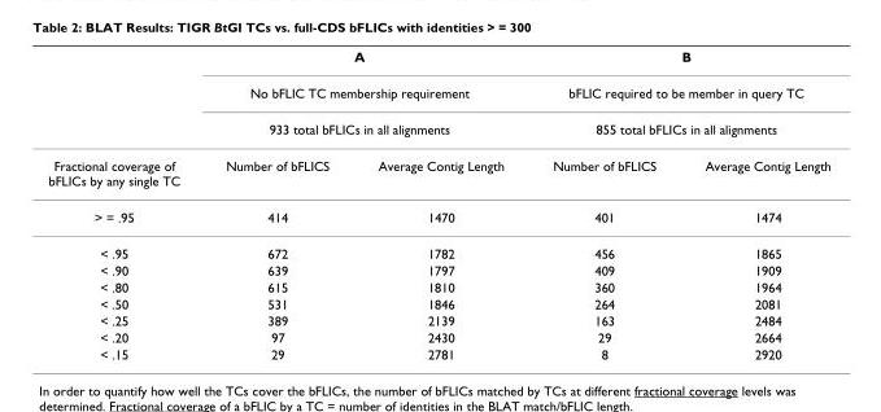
<table><thead><tr><td rowspan="4">Fractional coverage of bFLICs by any single TC</td><td rowspan="3" colspan="2">A No bFLIC TC membership requirement 933 total bFLICs in all alignments</td><td rowspan="3" colspan="2">B bFLIC required to be member in query TC 855 total bFLICs in all alignments</td></tr><tr></tr><tr></tr><tr><td>Number of bFLICS</td><td>Average Contig Length</td><td>Number of bFLICS</td><td>Average Contig Length</td></tr></thead><tbody><tr><td>&gt; = .95</td><td>414</td><td>1470</td><td>401</td><td>1474</td></tr><tr><td>&lt; .95</td><td>672</td><td>1782</td><td>456</td><td>1865</td></tr><tr><td>&lt; .90</td><td>639</td><td>1797</td><td>409</td><td>1909</td></tr><tr><td>&lt; .80</td><td>615</td><td>1810</td><td>360</td><td>1964</td></tr><tr><td>&lt; .50</td><td>531</td><td>1846</td><td>264</td><td>2081</td></tr><tr><td>&lt; .25</td><td>389</td><td>2139</td><td>163</td><td>2484</td></tr><tr><td>&lt; .20</td><td>97</td><td>2430</td><td>29</td><td>2664</td></tr><tr><td>&lt; .15</td><td>29</td><td>2781</td><td>8</td><td>2920</td></tr></tbody></table>